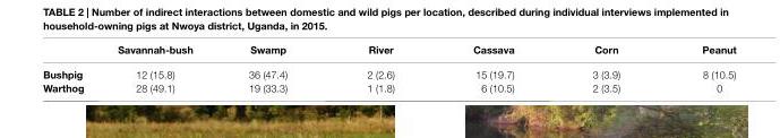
<table><thead><tr><td></td><td>savannah-bush</td><td>swamp</td><td>river</td><td>cassava</td><td>corn</td><td>Peanut</td></tr></thead><tbody><tr><td>Bushpig</td><td>12 (15.8)</td><td>36 (47.4)</td><td>2 (2.6)</td><td>15 (19.7)</td><td>3 (3.9)</td><td>8 (10.5)</td></tr><tr><td>Warthog</td><td>28 (49.1)</td><td>19 (33.3)</td><td>1 (1.8)</td><td>6 (10.5)</td><td>2 (3.5)</td><td>0</td></tr></tbody></table>